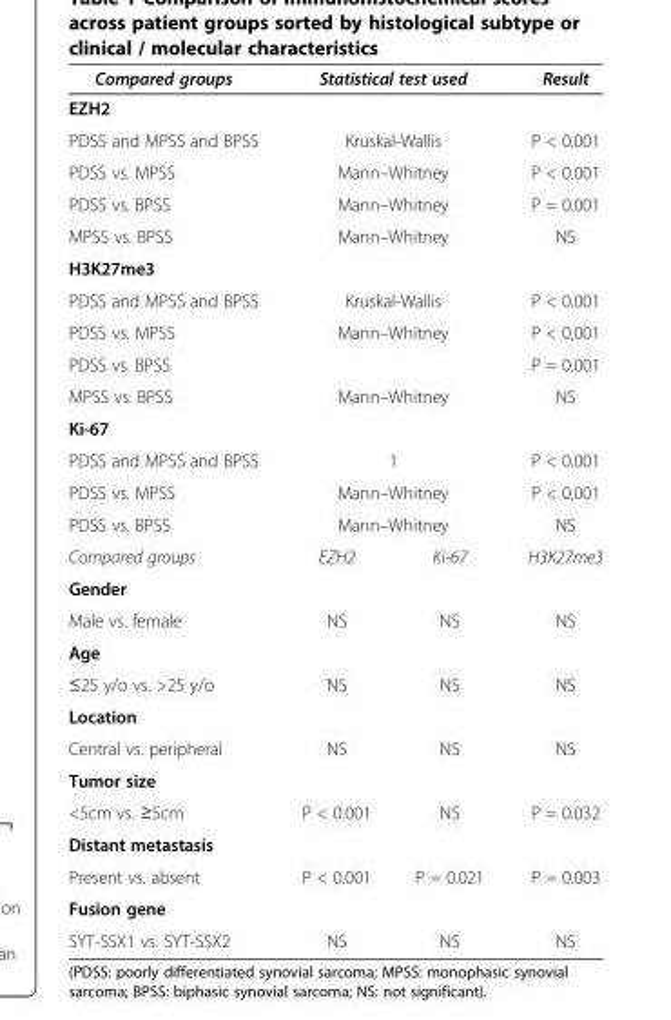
<table><thead><tr><td>Compared groups</td><td colspan="2">Statistical test used</td><td>Result</td></tr></thead><tbody><tr><td colspan="4">EZH2</td></tr><tr><td>PDSS and MPSS and BPSS</td><td colspan="2">Kruskal-Wallis</td><td>P &lt; 0.001</td></tr><tr><td>PDSS vs. MPSS</td><td colspan="2">Mann–Whitney</td><td>P &lt; 0.001</td></tr><tr><td>PDSS vs. BPSS</td><td colspan="2">Mann–Whitney</td><td>P = 0.001</td></tr><tr><td>MPSS vs. BPSS</td><td colspan="2">Mann–Whitney</td><td>NS</td></tr><tr><td colspan="4">H3K27me3</td></tr><tr><td>PDSS and MPSS and BPSS</td><td colspan="2">Kruskal-Wallis</td><td>P &lt; 0.001</td></tr><tr><td>PDSS vs. MPSS</td><td colspan="2">Mann–Whitney</td><td>P &lt; 0,001</td></tr><tr><td>PDSS vs. BPSS</td><td colspan="2"></td><td>P = 0.001</td></tr><tr><td>MPSS vs. BPSS</td><td colspan="2">Mann–Whitney</td><td>NS</td></tr><tr><td colspan="4">Ki-67</td></tr><tr><td>PDSS and MPSS and BPSS</td><td colspan="2">1</td><td>P &lt; 0.001</td></tr><tr><td>PDSS vs. MPSS</td><td colspan="2">Mann–Whitney</td><td>P &lt; 0,001</td></tr><tr><td>PDSS vs. BPSS</td><td colspan="2">Mann–Whitney</td><td>NS</td></tr><tr><td>Compared groups</td><td>EZH2</td><td>Ki-67</td><td>H3K27me3</td></tr><tr><td colspan="4">Gender</td></tr><tr><td>Male vs. female</td><td>NS</td><td>NS</td><td>NS</td></tr><tr><td colspan="4">Age</td></tr><tr><td>≤25 y/o vs. &gt;25 y/o</td><td>NS</td><td>NS</td><td>NS</td></tr><tr><td colspan="4">Location</td></tr><tr><td>Central vs. peripheral</td><td>NS</td><td>NS</td><td>NS</td></tr><tr><td colspan="4">Tumor size</td></tr><tr><td>&lt;5cm vs. ≥5cm</td><td>P &lt; 0.001</td><td>NS</td><td>P = 0.032</td></tr><tr><td colspan="4">Distant metastasis</td></tr><tr><td>Present vs. absent</td><td>P &lt; 0.001</td><td>P = 0.021</td><td>P = 0.003</td></tr><tr><td colspan="4">Fusion gene</td></tr><tr><td>SYT-SSX1 vs. SYT-SSX2</td><td>NS</td><td>NS</td><td>NS</td></tr></tbody></table>